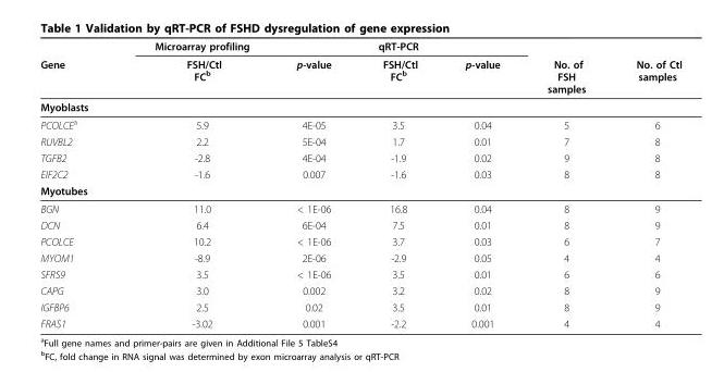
<table><thead><tr><td rowspan="2">Gene</td><td rowspan="2">Microarray profiling FSH/Ctl FCb</td><td rowspan="2">p-value</td><td rowspan="2">qRT-PCR FSH/Ctl FCb</td><td rowspan="2">p-value</td><td rowspan="2">No. of FSH samples</td><td rowspan="2">No. of Ctl samples</td></tr><tr></tr></thead><tbody><tr><td colspan="7">Myoblasts</td></tr><tr><td>PCOLCE<sup>a</sup></td><td>5.9</td><td>4E-05</td><td>3.5</td><td>0.04</td><td>5</td><td>6</td></tr><tr><td>RUVBL2</td><td>2.2</td><td>5E-04</td><td>1.7</td><td>0.01</td><td>7</td><td>8</td></tr><tr><td>TGFB2</td><td>-2.8</td><td>4E-04</td><td>-1.9</td><td>0.02</td><td>9</td><td>8</td></tr><tr><td>EIF2C2</td><td>-1.6</td><td>0.007</td><td>-1.6</td><td>0.03</td><td>8</td><td>8</td></tr><tr><td colspan="7">Myotubes</td></tr><tr><td>BGN</td><td>11.0</td><td>&lt; 1E-06</td><td>16.8</td><td>0.04</td><td>8</td><td>9</td></tr><tr><td>DCN</td><td>6.4</td><td>6E-04</td><td>7.5</td><td>0.01</td><td>8</td><td>9</td></tr><tr><td>PCOLCE</td><td>10.2</td><td>&lt; 1E-06</td><td>3.7</td><td>0.03</td><td>6</td><td>7</td></tr><tr><td>MYOM1</td><td>-8.9</td><td>2E-06</td><td>-2.9</td><td>0.05</td><td>4</td><td>4</td></tr><tr><td>SFRS9</td><td>3.5</td><td>&lt; 1E-06</td><td>3.5</td><td>0.01</td><td>6</td><td>6</td></tr><tr><td>CAPG</td><td>3.0</td><td>0.002</td><td>3.2</td><td>0.02</td><td>8</td><td>9</td></tr><tr><td>IGFBP6</td><td>2.5</td><td>0.02</td><td>3.5</td><td>0.01</td><td>8</td><td>9</td></tr><tr><td>FRAS1</td><td>-3.02</td><td>0.001</td><td>-2.2</td><td>0.001</td><td>4</td><td>4</td></tr></tbody></table>